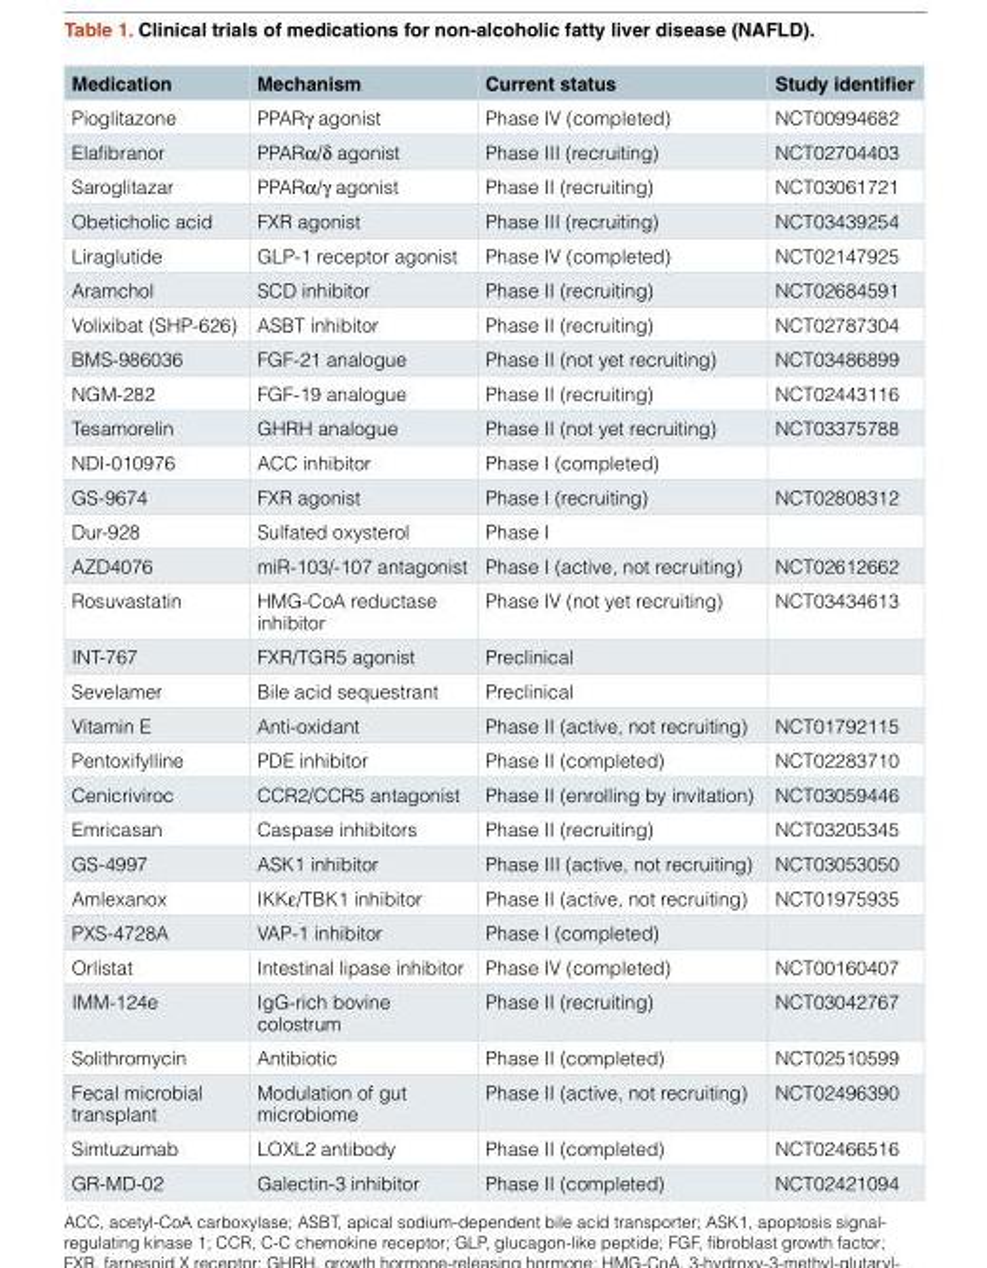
<table><thead><tr><td>Medication</td><td>Mechanism</td><td>Current status</td><td>Study identifier</td></tr></thead><tbody><tr><td>Pioglitazone</td><td>PPARγ agonist</td><td>Phase IV (completed)</td><td>NCT00994682</td></tr><tr><td>Elafibranor</td><td>PPARα/δ agonist</td><td>Phase III (recruiting)</td><td>NCT02704403</td></tr><tr><td>Saroglitazar</td><td>PPARα/γ agonist</td><td>Phase II (recruiting)</td><td>NCT03061721</td></tr><tr><td>Obeticholic acid</td><td>FXR agonist</td><td>Phase III (recruiting)</td><td>NCT03439254</td></tr><tr><td>Liraglutide</td><td>GLP-1 receptor agonist</td><td>Phase IV (completed)</td><td>NCT02147925</td></tr><tr><td>Aramchol</td><td>SCD inhibitor</td><td>Phase II (recruiting)</td><td>NCT02684591</td></tr><tr><td>Volixibat (SHP-626)</td><td>ASBT inhibitor</td><td>Phase II (recruiting)</td><td>NCT02787304</td></tr><tr><td>BMS-986036</td><td>FGF-21 analogue</td><td>Phase II (not yet recruiting)</td><td>NCT03486899</td></tr><tr><td>NGM-282</td><td>FGF-19 analogue</td><td>Phase II (recruiting)</td><td>NCT02443116</td></tr><tr><td>Tesamorelin</td><td>GHRH analogue</td><td>Phase II (not yet recruiting)</td><td>NCT03375788</td></tr><tr><td>NDI-010976</td><td>ACC inhibitor</td><td>Phase I (completed)</td><td></td></tr><tr><td>GS-9674</td><td>FXR agonist</td><td>Phase I (recruiting)</td><td>NCT02808312</td></tr><tr><td>Dur-928</td><td>Sulfated oxysterol</td><td>Phase I</td><td></td></tr><tr><td>AZD4076</td><td>miR-103/-107 antagonist</td><td>Phase I (active, not recruiting)</td><td>NCT02612662</td></tr><tr><td>Rosuvastatin</td><td>HMG-CoA reductase inhibitor</td><td>Phase IV (not yet recruiting)</td><td>NCT03434613</td></tr><tr><td>INT-767</td><td>FXR/TGR5 agonist</td><td>Preclinical</td><td></td></tr><tr><td>Sevelamer</td><td>Bile acid sequestrant</td><td>Preclinical</td><td></td></tr><tr><td>Vitamin E</td><td>Anti-oxidant</td><td>Phase II (active, not recruiting)</td><td>NCT01792115</td></tr><tr><td>Pentoxifylline</td><td>PDE inhibitor</td><td>Phase II (completed)</td><td>NCT02283710</td></tr><tr><td>Cenicriviroc</td><td>CCR2/CCR5 antagonist</td><td>Phase II (enrolling by invitation)</td><td>NCT03059446</td></tr><tr><td>Emricasan</td><td>Caspase inhibitors</td><td>Phase II (recruiting)</td><td>NCT03205345</td></tr><tr><td>GS-4997</td><td>ASK1 inhibitor</td><td>Phase III (active, not recruiting)</td><td>NCT03053050</td></tr><tr><td>Amlexanox</td><td>IKKε/TBK1 inhibitor</td><td>Phase II (active, not recruiting)</td><td>NCT01975935</td></tr><tr><td>PXS-4728A</td><td>VAP-1 inhibitor</td><td>Phase I (completed)</td><td></td></tr><tr><td>Orlistat</td><td>Intestinal lipase inhibitor</td><td>Phase IV (completed)</td><td>NCT00160407</td></tr><tr><td>IMM-124e</td><td>IgG-rich bovine colostrum</td><td>Phase II (recruiting)</td><td>NCT03042767</td></tr><tr><td>Solithromycin</td><td>Antibiotic</td><td>Phase II (completed)</td><td>NCT02510599</td></tr><tr><td>Fecal microbial transplant</td><td>Modulation of gut microbiome</td><td>Phase II (active, not recruiting)</td><td>NCT02496390</td></tr><tr><td>Simtuzumab</td><td>LOXL2 antibody</td><td>Phase II (completed)</td><td>NCT02466516</td></tr><tr><td>GR-MD-02</td><td>Galectin-3 inhibitor</td><td>Phase II (completed)</td><td>NCT02421094</td></tr></tbody></table>